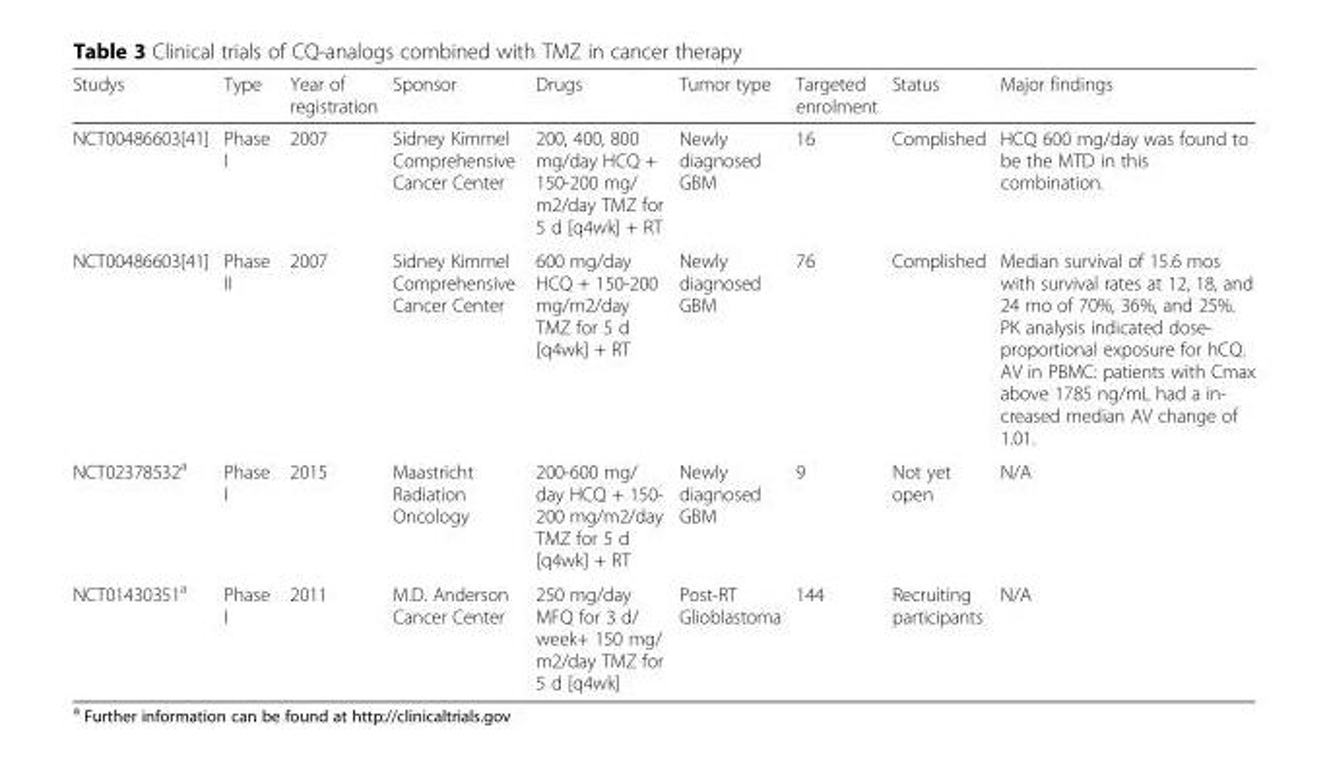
<table><thead><tr><td>Studys</td><td>Type</td><td>Year of registration</td><td>Sponsor</td><td>Drugs</td><td>Tumor type</td><td>Targeted enrolment</td><td>Status</td><td>Major findings</td></tr></thead><tbody><tr><td>NCT00486603[41]</td><td>Phase I</td><td>2007</td><td>Sidney Kimmel Comprehensive Cancer Center</td><td>200, 400, 800 mg/day HCQ + 150-200 mg/ m2/day TMZ for 5 d [q4wk] + RT</td><td>Newly diagnosed GBM</td><td>16</td><td>Complished</td><td>HCQ 600 mg/day was found to be the MTD in this combination.</td></tr><tr><td>NCT00486603[41]</td><td>Phase II</td><td>2007</td><td>Sidney Kimmel Comprehensive Cancer Center</td><td>600 mg/day HCQ + 150-200 mg/m2/day TMZ for 5 d [q4wk] + RT</td><td>Newly diagnosed GBM</td><td>76</td><td>Complished</td><td>Median survival of 15.6 mos with survival rates at 12, 18, and 24 mo of 70%, 36%, and 25%. PK analysis indicated dose- proportional exposure for hCQ. AV in PBMC: patients with Cmax above 1785 ng/mL had a in- creased median AV change of 1.01.</td></tr><tr><td>NCT02378532<sup>a</sup></td><td>Phase I</td><td>2015</td><td>Maastricht Radiation Oncology</td><td>200-600 mg/ day HCQ + 150- 200 mg/m2/day TMZ for 5 d [q4wk] + RT</td><td>Newly diagnosed GBM</td><td>9</td><td>Not yet open</td><td>N/A</td></tr><tr><td>NCT01430351<sup>a</sup></td><td>Phase I</td><td>2011</td><td>M.D. Anderson Cancer Center</td><td>250 mg/day MFQ for 3 d/ week+ 150 mg/ m2/day TMZ for 5 d [q4wk]</td><td>Post-RT Glioblastoma</td><td>144</td><td>Recruiting participants</td><td>N/A</td></tr></tbody></table>